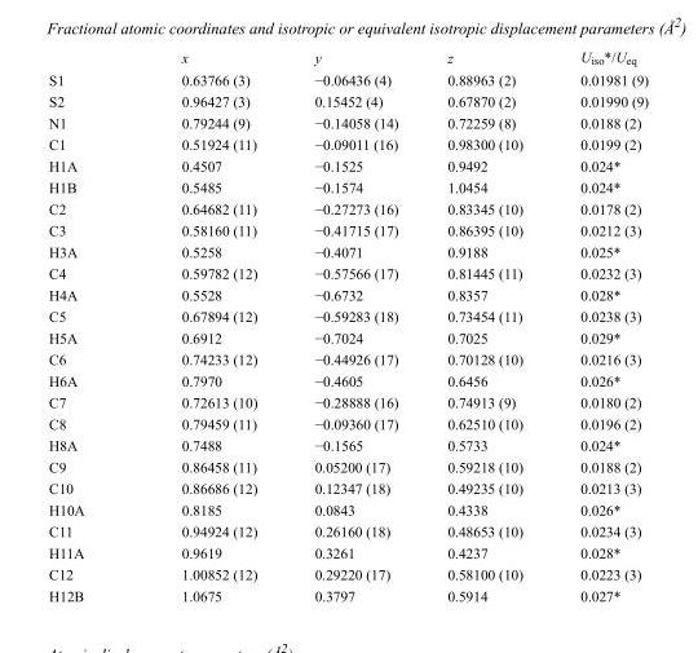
<table><thead><tr><td></td><td>x</td><td>y</td><td>z</td><td>U<sub>iso</sub>*/U<sub>eq</sub></td></tr></thead><tbody><tr><td>S1</td><td>0.63766 (3)</td><td>−0.06436 (4)</td><td>0.88963 (2)</td><td>0.01981 (9)</td></tr><tr><td>S2</td><td>0.96427 (3)</td><td>0.15452 (4)</td><td>0.67870 (2)</td><td>0.01990 (9)</td></tr><tr><td>N1</td><td>0.79244 (9)</td><td>−0.14058 (14)</td><td>0.72259 (8)</td><td>0.0188 (2)</td></tr><tr><td>C1</td><td>0.51924 (11)</td><td>−0.09011 (16)</td><td>0.98300 (10)</td><td>0.0199 (2)</td></tr><tr><td>H1A</td><td>0.4507</td><td>−0.1525</td><td>0.9492</td><td>0.024*</td></tr><tr><td>H1B</td><td>0.5485</td><td>−0.1574</td><td>1.0454</td><td>0.024*</td></tr><tr><td>C2</td><td>0.64682 (11)</td><td>−0.27273 (16)</td><td>0.83345 (10)</td><td>0.0178 (2)</td></tr><tr><td>C3</td><td>0.58160 (11)</td><td>−0.41715 (17)</td><td>0.86395 (10)</td><td>0.0212 (3)</td></tr><tr><td>H3A</td><td>0.5258</td><td>−0.4071</td><td>0.9188</td><td>0.025*</td></tr><tr><td>C4</td><td>0.59782 (12)</td><td>−0.57566 (17)</td><td>0.81445 (11)</td><td>0.0232 (3)</td></tr><tr><td>H4A</td><td>0.5528</td><td>−0.6732</td><td>0.8357</td><td>0.028*</td></tr><tr><td>C5</td><td>0.67894 (12)</td><td>−0.59283 (18)</td><td>0.73454 (11)</td><td>0.0238 (3)</td></tr><tr><td>H5A</td><td>0.6912</td><td>−0.7024</td><td>0.7025</td><td>0.029*</td></tr><tr><td>C6</td><td>0.74233 (12)</td><td>−0.44926 (17)</td><td>0.70128 (10)</td><td>0.0216 (3)</td></tr><tr><td>H6A</td><td>0.7970</td><td>−0.4605</td><td>0.6456</td><td>0.026*</td></tr><tr><td>C7</td><td>0.72613 (10)</td><td>−0.28888 (16)</td><td>0.74913 (9)</td><td>0.0180 (2)</td></tr><tr><td>C8</td><td>0.79459 (11)</td><td>−0.09360 (17)</td><td>0.62510 (10)</td><td>0.0196 (2)</td></tr><tr><td>H8A</td><td>0.7488</td><td>−0.1565</td><td>0.5733</td><td>0.024*</td></tr><tr><td>C9</td><td>0.86458 (11)</td><td>0.05200 (17)</td><td>0.59218 (10)</td><td>0.0188 (2)</td></tr><tr><td>C10</td><td>0.86686 (12)</td><td>0.12347 (18)</td><td>0.49235 (10)</td><td>0.0213 (3)</td></tr><tr><td>H10A</td><td>0.8185</td><td>0.0843</td><td>0.4338</td><td>0.026*</td></tr><tr><td>C11</td><td>0.94924 (12)</td><td>0.26160 (18)</td><td>0.48653 (10)</td><td>0.0234 (3)</td></tr><tr><td>H11A</td><td>0.9619</td><td>0.3261</td><td>0.4237</td><td>0.028*</td></tr><tr><td>C12</td><td>1.00852 (12)</td><td>0.29220 (17)</td><td>0.58100 (10)</td><td>0.0223 (3)</td></tr><tr><td>H12B</td><td>1.0675</td><td>0.3797</td><td>0.5914</td><td>0.027*</td></tr></tbody></table>